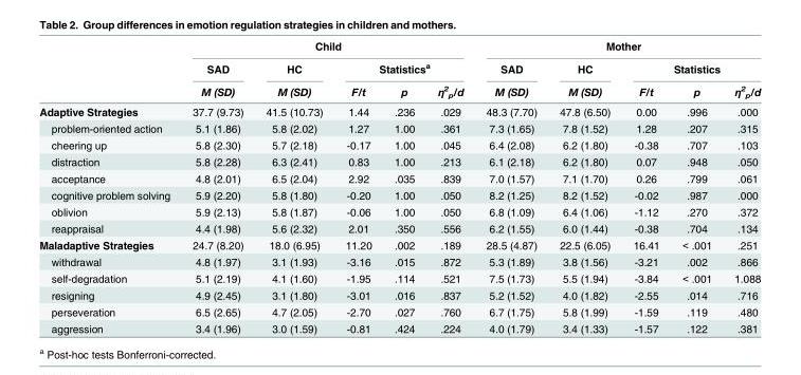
<table><thead><tr><td rowspan="3"></td><td colspan="5">Child</td><td colspan="5">Mother</td></tr><tr><td rowspan="2">SAD M (SD)</td><td rowspan="2">HC M (SD)</td><td colspan="3">Statistics<sup>a</sup></td><td rowspan="2">SAD M (SD)</td><td rowspan="2">HC M (SD)</td><td colspan="3">Statistics</td></tr><tr><td>F/t</td><td>p</td><td>η<sup>2</sup> <sub>p</sub>/d</td><td>F/t</td><td>p</td><td>η<sup>2</sup> <sub>p</sub>/d</td></tr></thead><tbody><tr><td>Adaptive Strategies</td><td>37.7 (9.73)</td><td>41.5 (10.73)</td><td>1.44</td><td>.236</td><td>.029</td><td>48.3 (7.70)</td><td>47.8 (6.50)</td><td>0.00</td><td>.996</td><td>.000</td></tr><tr><td>problem-oriented action</td><td>5.1 (1.86)</td><td>5.8 (2.02)</td><td>1.27</td><td>1.00</td><td>.361</td><td>7.3 (1.65)</td><td>7.8 (1.52)</td><td>1.28</td><td>.207</td><td>.315</td></tr><tr><td>cheering up</td><td>5.8 (2.30)</td><td>5.7 (2.18)</td><td>-0.17</td><td>1.00</td><td>.045</td><td>6.4 (2.08)</td><td>6.2 (1.80)</td><td>-0.38</td><td>.707</td><td>.103</td></tr><tr><td>distraction</td><td>5.8 (2.28)</td><td>6.3 (2.41)</td><td>0.83</td><td>1.00</td><td>.213</td><td>6.1 (2.18)</td><td>6.2 (1.80)</td><td>0.07</td><td>.948</td><td>.050</td></tr><tr><td>acceptance</td><td>4.8 (2.01)</td><td>6.5 (2.04)</td><td>2.92</td><td>.035</td><td>.839</td><td>7.0 (1.57)</td><td>7.1 (1.70)</td><td>0.26</td><td>.799</td><td>.061</td></tr><tr><td>cognitive problem solving</td><td>5.9 (2.20)</td><td>5.8 (1.80)</td><td>-0.20</td><td>1.00</td><td>.050</td><td>8.2 (1.25)</td><td>8.2 (1.52)</td><td>-0.02</td><td>.987</td><td>.000</td></tr><tr><td>oblivion</td><td>5.9 (2.13)</td><td>5.8 (1.87)</td><td>-0.06</td><td>1.00</td><td>.050</td><td>6.8 (1.09)</td><td>6.4 (1.06)</td><td>-1.12</td><td>.270</td><td>.372</td></tr><tr><td>reappraisal</td><td>4.4 (1.98)</td><td>5.6 (2.32)</td><td>2.01</td><td>.350</td><td>.556</td><td>6.2 (1.55)</td><td>6.0 (1.44)</td><td>-0.38</td><td>.704</td><td>.134</td></tr><tr><td>Maladaptive Strategies</td><td>24.7 (8.20)</td><td>18.0 (6.95)</td><td>11.20</td><td>.002</td><td>.189</td><td>28.5 (4.87)</td><td>22.5 (6.05)</td><td>16.41</td><td>&lt; .001</td><td>.251</td></tr><tr><td>withdrawal</td><td>4.8 (1.97)</td><td>3.1 (1.93)</td><td>-3.16</td><td>.015</td><td>.872</td><td>5.3 (1.89)</td><td>3.8 (1.56)</td><td>-3.21</td><td>.002</td><td>.866</td></tr><tr><td>self-degradation</td><td>5.1 (2.19)</td><td>4.1 (1.60)</td><td>-1.95</td><td>.114</td><td>.521</td><td>7.5 (1.73)</td><td>5.5 (1.94)</td><td>-3.84</td><td>&lt; .001</td><td>1.088</td></tr><tr><td>resigning</td><td>4.9 (2.45)</td><td>3.1 (1.80)</td><td>-3.01</td><td>.016</td><td>.837</td><td>5.2 (1.52)</td><td>4.0 (1.82)</td><td>-2.55</td><td>.014</td><td>.716</td></tr><tr><td>perseveration</td><td>6.5 (2.65)</td><td>4.7 (2.05)</td><td>-2.70</td><td>.027</td><td>.760</td><td>6.7 (1.75)</td><td>5.8 (1.99)</td><td>-1.59</td><td>.119</td><td>.480</td></tr><tr><td>aggression</td><td>3.4 (1.96)</td><td>3.0 (1.59)</td><td>-0.81</td><td>.424</td><td>.224</td><td>4.0 (1.79)</td><td>3.4 (1.33)</td><td>-1.57</td><td>.122</td><td>.381</td></tr></tbody></table>